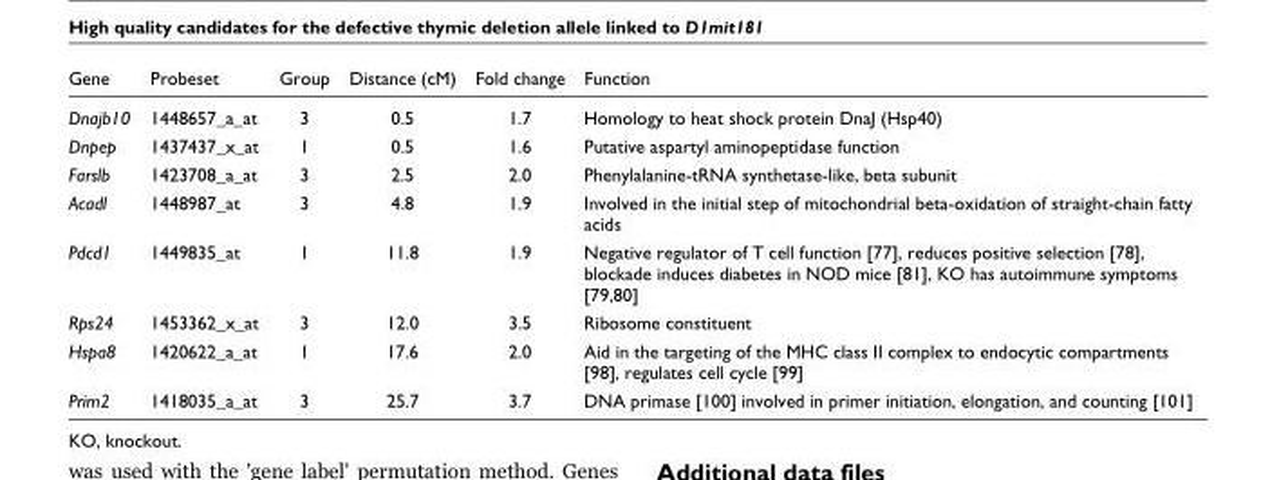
<table><thead><tr><td>Gene</td><td>Probeset</td><td>Group</td><td>Distance (cM)</td><td>Fold change</td><td>Function</td></tr></thead><tbody><tr><td>Dnajb10</td><td>1448657_a_at</td><td>3</td><td>0.5</td><td>1.7</td><td>Homology to heat shock protein DnaJ (Hsp40)</td></tr><tr><td>Dnpep</td><td>1437437_x_at</td><td>1</td><td>0.5</td><td>1.6</td><td>Putative aspartyl aminopeptidase function</td></tr><tr><td>Farslb</td><td>1423708_a_at</td><td>3</td><td>2.5</td><td>2.0</td><td>Phenylalanine-tRNA synthetase-like, beta subunit</td></tr><tr><td>Acadl</td><td>1448987_at</td><td>3</td><td>4.8</td><td>1.9</td><td>Involved in the initial step of mitochondrial beta-oxidation of straight-chain fatty acids</td></tr><tr><td>Pdcd1</td><td>1449835_at</td><td>1</td><td>11.8</td><td>1.9</td><td>Negative regulator of T cell function [77], reduces positive selection [78], blockade induces diabetes in NOD mice [81], KO has autoimmune symptoms [79,80]</td></tr><tr><td>Rps24</td><td>1453362_x_at</td><td>3</td><td>12.0</td><td>3.5</td><td>Ribosome constituent</td></tr><tr><td>Hspa8</td><td>1420622_a_at</td><td>1</td><td>17.6</td><td>2.0</td><td>Aid in the targeting of the MHC class II complex to endocytic compartments [98], regulates cell cycle [99]</td></tr><tr><td>Prim2</td><td>1418035_a_at</td><td>3</td><td>25.7</td><td>3.7</td><td>DNA primase [100] involved in primer initiation, elongation, and counting [101]</td></tr></tbody></table>